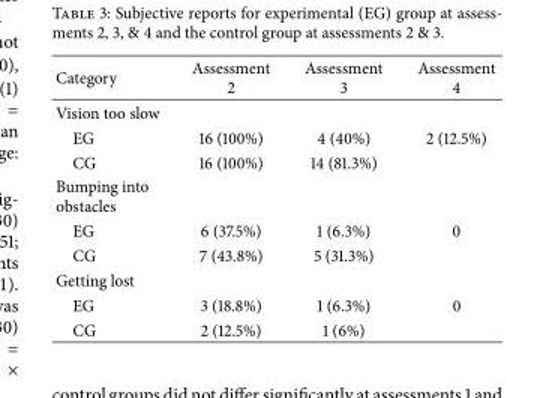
<table><thead><tr><td>Category</td><td>Assessment 2</td><td>Assessment 3</td><td>Assessment 4</td></tr></thead><tbody><tr><td colspan="4">Vision too slow</td></tr><tr><td>EG</td><td>16 (100%)</td><td>4 (40%)</td><td>2 (12.5%)</td></tr><tr><td>CG</td><td>16 (100%)</td><td>14 (81.3%)</td><td></td></tr><tr><td colspan="4">Bumping into obstacles</td></tr><tr><td>EG</td><td>6 (37.5%)</td><td>1 (6.3%)</td><td>0</td></tr><tr><td>CG</td><td>7 (43.8%)</td><td>5 (31.3%)</td><td></td></tr><tr><td colspan="4">Getting lost</td></tr><tr><td>EG</td><td>3 (18.8%)</td><td>1 (6.3%)</td><td>0</td></tr><tr><td>CG</td><td>2 (12.5%)</td><td>1 (6%)</td><td></td></tr></tbody></table>